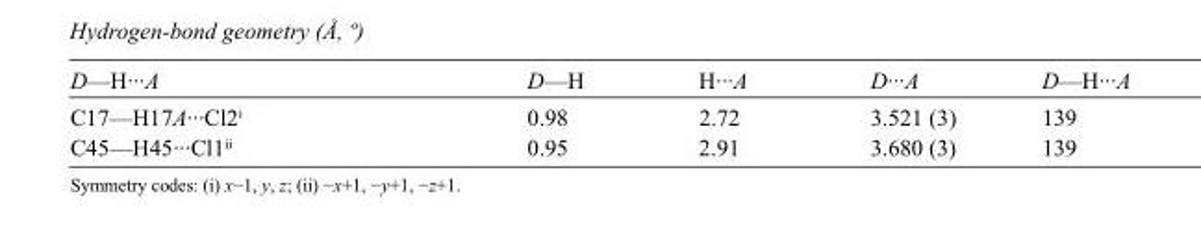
<table><tbody><tr><td>D—H···A</td><td>D—H</td><td>H···A</td><td>D···A</td><td>D—H···A</td></tr><tr><td>C17—H17A···Cl2<sup>i</sup></td><td>0.98</td><td>2.72</td><td>3.521 (3)</td><td>139</td></tr><tr><td>C45—H45···Cl1<sup>ii</sup></td><td>0.95</td><td>2.91</td><td>3.680 (3)</td><td>139</td></tr></tbody></table>